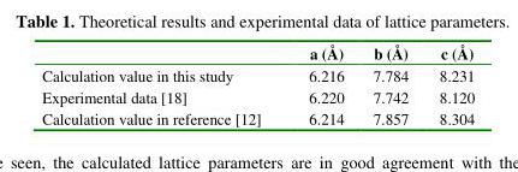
<table><thead><tr><td></td><td>a (Å)</td><td>b (Å)</td><td>c (Å)</td></tr></thead><tbody><tr><td>Calculation value in this study</td><td>6.216</td><td>7.784</td><td>8.231</td></tr><tr><td>Experimental data [18]</td><td>6.220</td><td>7.742</td><td>8.120</td></tr><tr><td>Calculation value in reference [12]</td><td>6.214</td><td>7.857</td><td>8.304</td></tr></tbody></table>